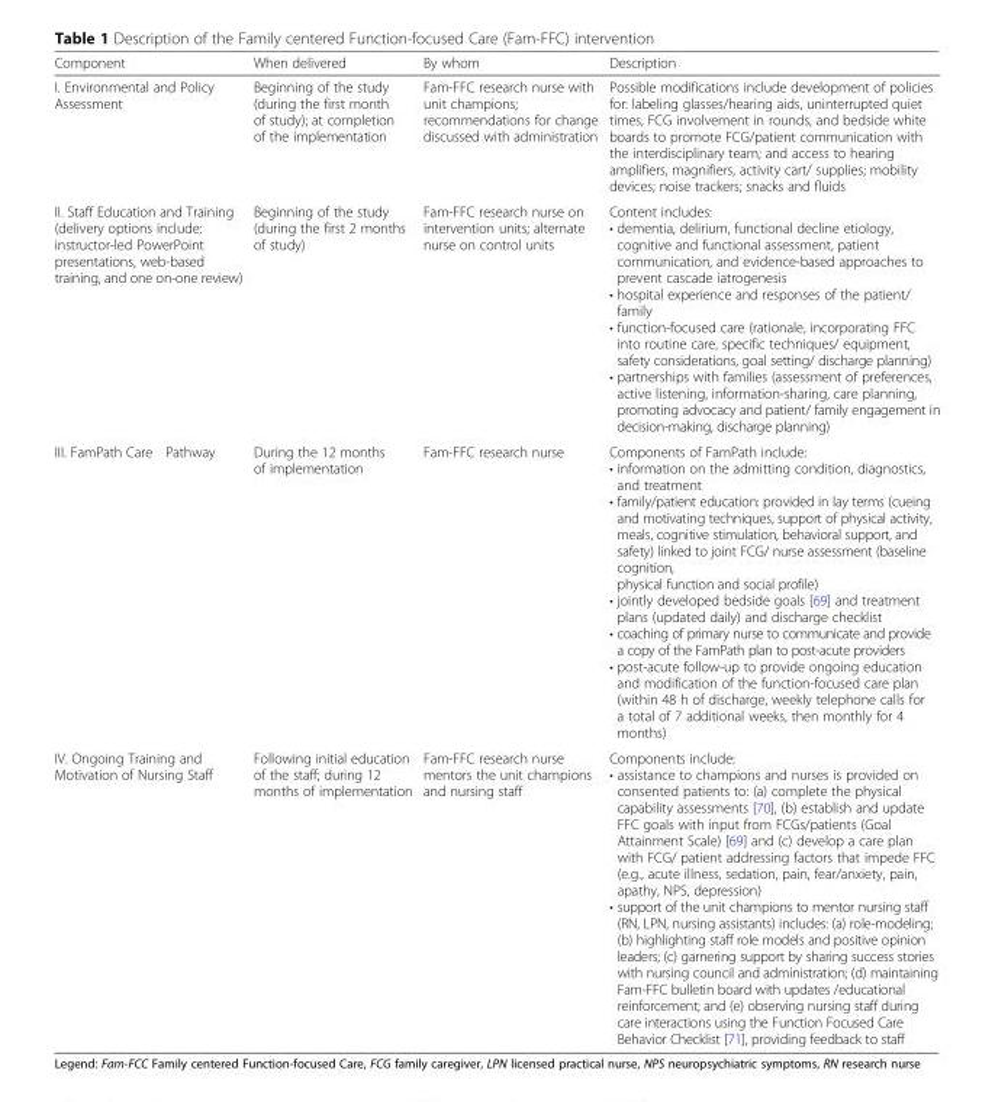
<table><thead><tr><td>Component</td><td>When delivered</td><td>By whom</td><td>Description</td></tr></thead><tbody><tr><td>I. Environmental and Policy Assessment</td><td>Beginning of the study (during the first month of study); at completion of the implementation</td><td>Fam-FFC research nurse with unit champions; recommendations for change discussed with administration</td><td>Possible modifications include development of policies for: labeling glasses/hearing aids, uninterrupted quiet times, FCG involvement in rounds, and bedside white boards to promote FCG/patient communication with the interdisciplinary team; and access to hearing amplifiers, magnifiers, activity cart/ supplies; mobility devices; noise trackers; snacks and fluids</td></tr><tr><td>II. Staff Education and Training (delivery options include: instructor-led PowerPoint presentations, web-based training, and one on-one review)</td><td>Beginning of the study (during the first 2 months of study)</td><td>Fam-FFC research nurse on intervention units; alternate nurse on control units</td><td>Content includes: • dementia, delirium, functional decline etiology, cognitive and functional assessment, patient communication, and evidence-based approaches to prevent cascade iatrogenesis • hospital experience and responses of the patient/ family • function-focused care (rationale, incorporating FFC into routine care, specific techniques/ equipment, safety considerations, goal setting/ discharge planning) • partnerships with families (assessment of preferences, active listening, information-sharing, care planning, promoting advocacy and patient/ family engagement in decision-making, discharge planning)</td></tr><tr><td>III. FamPath Care Pathway</td><td>During the 12 months of implementation</td><td>Fam-FFC research nurse</td><td>Components of FamPath include: • information on the admitting condition, diagnostics, and treatment • family/patient education: provided in lay terms (cueing and motivating techniques, support of physical activity, meals, cognitive stimulation, behavioral support, and safety) linked to joint FCG/ nurse assessment (baseline cognition, physical function and social profile) • jointly developed bedside goals [69] and treatment plans (updated daily) and discharge checklist • coaching of primary nurse to communicate and provide a copy of the FamPath plan to post-acute providers • post-acute follow-up to provide ongoing education and modification of the function-focused care plan (within 48 h of discharge, weekly telephone calls for a total of 7 additional weeks, then monthly for 4 months)</td></tr><tr><td>IV. Ongoing Training and Motivation of Nursing Staff</td><td>Following initial education of the staff; during 12 months of implementation</td><td>Fam-FFC research nurse mentors the unit champions and nursing staff</td><td>Components include: • assistance to champions and nurses is provided on consented patients to: (a) complete the physical capability assessments [70], (b) establish and update FFC goals with input from FCGs/patients (Goal Attainment Scale) [69] and (c) develop a care plan with FCG/ patient addressing factors that impede FFC (e.g., acute illness, sedation, pain, fear/anxiety, pain, apathy, NPS, depression) • support of the unit champions to mentor nursing staff (RN, LPN, nursing assistants) includes: (a) role-modeling; (b) highlighting staff role models and positive opinion leaders; (c) garnering support by sharing success stories with nursing council and administration; (d) maintaining Fam-FFC bulletin board with updates /educational reinforcement; and (e) observing nursing staff during care interactions using the Function Focused Care Behavior Checklist [71], providing feedback to staff</td></tr></tbody></table>